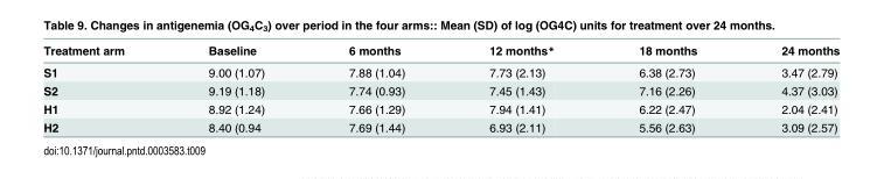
<table><thead><tr><td>Treatment arm</td><td>Baseline</td><td>6 months</td><td>12 months*</td><td>18 months</td><td>24 months</td></tr></thead><tbody><tr><td>S1</td><td>9.00 (1.07)</td><td>7.88 (1.04)</td><td>7.73 (2.13)</td><td>6.38 (2.73)</td><td>3.47 (2.79)</td></tr><tr><td>S2</td><td>9.19 (1.18)</td><td>7.74 (0.93)</td><td>7.45 (1.43)</td><td>7.16 (2.26)</td><td>4.37 (3.03)</td></tr><tr><td>H1</td><td>8.92 (1.24)</td><td>7.66 (1.29)</td><td>7.94 (1.41)</td><td>6.22 (2.47)</td><td>2.04 (2.41)</td></tr><tr><td>H2</td><td>8.40 (0.94</td><td>7.69 (1.44)</td><td>6.93 (2.11)</td><td>5.56 (2.63)</td><td>3.09 (2.57)</td></tr></tbody></table>